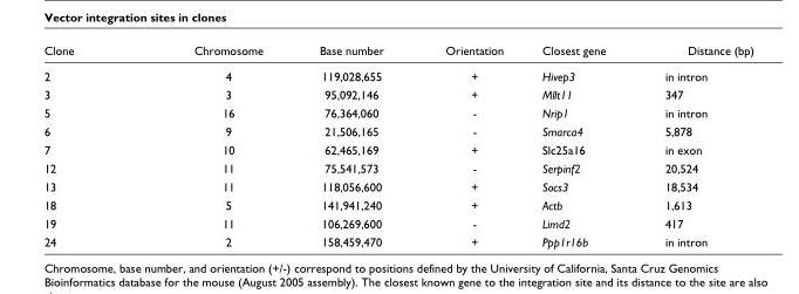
<table><thead><tr><td>Clone</td><td>Chromosome</td><td>Base number</td><td>Orientation</td><td>Closest gene</td><td>Distance (bp)</td></tr></thead><tbody><tr><td>2</td><td>4</td><td>119,028,655</td><td>+</td><td>Hivep3</td><td>in intron</td></tr><tr><td>3</td><td>3</td><td>95,092,146</td><td>+</td><td>Mllt11</td><td>347</td></tr><tr><td>5</td><td>16</td><td>76,364,060</td><td>-</td><td>Nrip1</td><td>in intron</td></tr><tr><td>6</td><td>9</td><td>21,506,165</td><td>-</td><td>Smarca4</td><td>5,878</td></tr><tr><td>7</td><td>10</td><td>62,465,169</td><td>+</td><td>Slc25a16</td><td>in exon</td></tr><tr><td>12</td><td>11</td><td>75,541,573</td><td>-</td><td>Serpinf2</td><td>20,524</td></tr><tr><td>13</td><td>11</td><td>118,056,600</td><td>+</td><td>Socs3</td><td>18,534</td></tr><tr><td>18</td><td>5</td><td>141,941,240</td><td>+</td><td>Actb</td><td>1,613</td></tr><tr><td>19</td><td>11</td><td>106,269,600</td><td>-</td><td>Limd2</td><td>417</td></tr><tr><td>24</td><td>2</td><td>158,459,470</td><td>+</td><td>Ppp1r16b</td><td>in intron</td></tr></tbody></table>